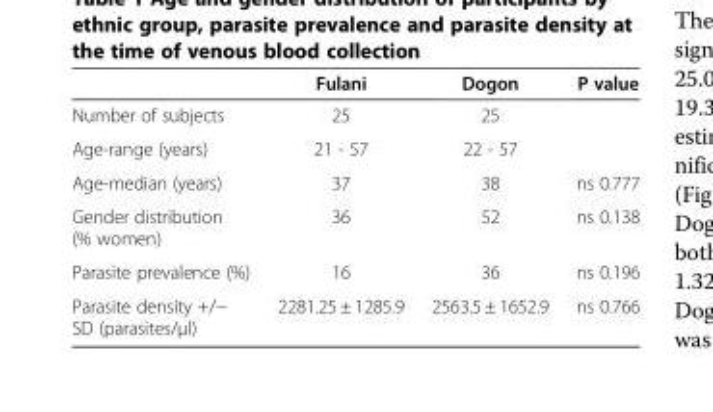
<table><thead><tr><td></td><td>Fulani</td><td>Dogon</td><td>P value</td></tr></thead><tbody><tr><td>Number of subjects</td><td>25</td><td>25</td><td></td></tr><tr><td>Age-range (years)</td><td>21 - 57</td><td>22 - 57</td><td></td></tr><tr><td>Age-median (years)</td><td>37</td><td>38</td><td>ns 0.777</td></tr><tr><td>Gender distribution (% women)</td><td>36</td><td>52</td><td>ns 0.138</td></tr><tr><td>Parasite prevalence (%)</td><td>16</td><td>36</td><td>ns 0.196</td></tr><tr><td>Parasite density +/− SD (parasites/μl)</td><td>2281.25 ± 1285.9</td><td>2563.5 ± 1652.9</td><td>ns 0.766</td></tr></tbody></table>